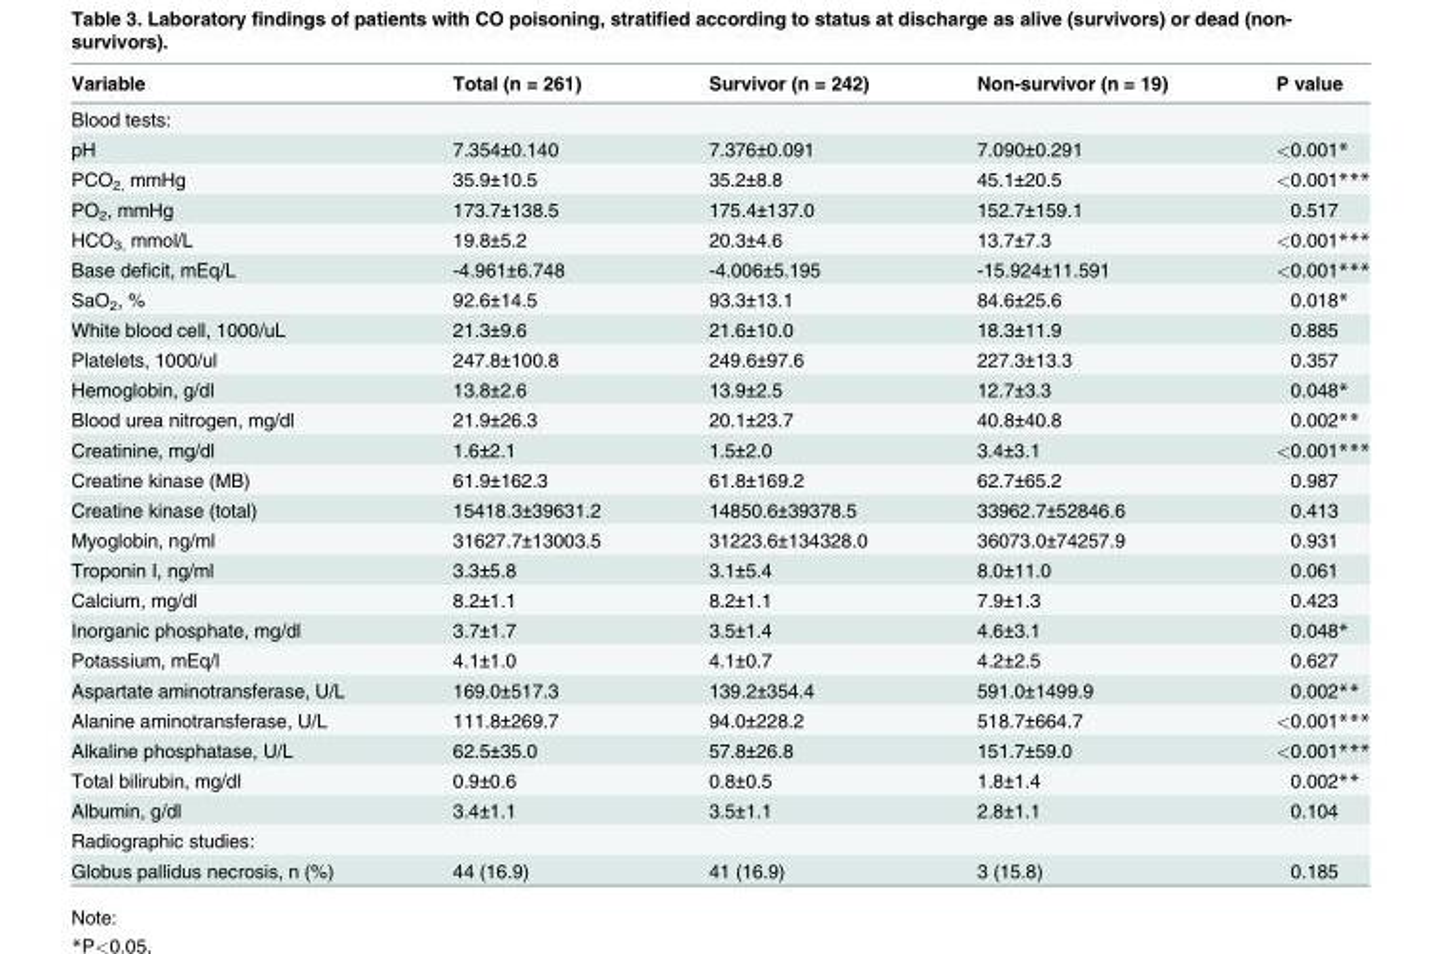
<table><thead><tr><td>Variable</td><td>Total (n = 261)</td><td>Survivor (n = 242)</td><td>Non-survivor (n = 19)</td><td>P value</td></tr></thead><tbody><tr><td colspan="5">Blood tests:</td></tr><tr><td>pH</td><td>7.354±0.140</td><td>7.376±0.091</td><td>7.090±0.291</td><td>&lt;0.001*</td></tr><tr><td>PCO<sub>2,</sub> mmHg</td><td>35.9±10.5</td><td>35.2±8.8</td><td>45.1±20.5</td><td>&lt;0.001***</td></tr><tr><td>PO<sub>2</sub>, mmHg</td><td>173.7±138.5</td><td>175.4±137.0</td><td>152.7±159.1</td><td>0.517</td></tr><tr><td>HCO<sub>3,</sub> mmol/L</td><td>19.8±5.2</td><td>20.3±4.6</td><td>13.7±7.3</td><td>&lt;0.001***</td></tr><tr><td>Base deficit, mEq/L</td><td>-4.961±6.748</td><td>-4.006±5.195</td><td>-15.924±11.591</td><td>&lt;0.001***</td></tr><tr><td>SaO<sub>2</sub>, %</td><td>92.6±14.5</td><td>93.3±13.1</td><td>84.6±25.6</td><td>0.018*</td></tr><tr><td>White blood cell, 1000/uL</td><td>21.3±9.6</td><td>21.6±10.0</td><td>18.3±11.9</td><td>0.885</td></tr><tr><td>Platelets, 1000/ul</td><td>247.8±100.8</td><td>249.6±97.6</td><td>227.3±13.3</td><td>0.357</td></tr><tr><td>Hemoglobin, g/dl</td><td>13.8±2.6</td><td>13.9±2.5</td><td>12.7±3.3</td><td>0.048*</td></tr><tr><td>Blood urea nitrogen, mg/dl</td><td>21.9±26.3</td><td>20.1±23.7</td><td>40.8±40.8</td><td>0.002**</td></tr><tr><td>Creatinine, mg/dl</td><td>1.6±2.1</td><td>1.5±2.0</td><td>3.4±3.1</td><td>&lt;0.001***</td></tr><tr><td>Creatine kinase (MB)</td><td>61.9±162.3</td><td>61.8±169.2</td><td>62.7±65.2</td><td>0.987</td></tr><tr><td>Creatine kinase (total)</td><td>15418.3±39631.2</td><td>14850.6±39378.5</td><td>33962.7±52846.6</td><td>0.413</td></tr><tr><td>Myoglobin, ng/ml</td><td>31627.7±13003.5</td><td>31223.6±134328.0</td><td>36073.0±74257.9</td><td>0.931</td></tr><tr><td>Troponin I, ng/ml</td><td>3.3±5.8</td><td>3.1±5.4</td><td>8.0±11.0</td><td>0.061</td></tr><tr><td>Calcium, mg/dl</td><td>8.2±1.1</td><td>8.2±1.1</td><td>7.9±1.3</td><td>0.423</td></tr><tr><td>Inorganic phosphate, mg/dl</td><td>3.7±1.7</td><td>3.5±1.4</td><td>4.6±3.1</td><td>0.048*</td></tr><tr><td>Potassium, mEq/l</td><td>4.1±1.0</td><td>4.1±0.7</td><td>4.2±2.5</td><td>0.627</td></tr><tr><td>Aspartate aminotransferase, U/L</td><td>169.0±517.3</td><td>139.2±354.4</td><td>591.0±1499.9</td><td>0.002**</td></tr><tr><td>Alanine aminotransferase, U/L</td><td>111.8±269.7</td><td>94.0±228.2</td><td>518.7±664.7</td><td>&lt;0.001***</td></tr><tr><td>Alkaline phosphatase, U/L</td><td>62.5±35.0</td><td>57.8±26.8</td><td>151.7±59.0</td><td>&lt;0.001***</td></tr><tr><td>Total bilirubin, mg/dl</td><td>0.9±0.6</td><td>0.8±0.5</td><td>1.8±1.4</td><td>0.002**</td></tr><tr><td>Albumin, g/dl</td><td>3.4±1.1</td><td>3.5±1.1</td><td>2.8±1.1</td><td>0.104</td></tr><tr><td colspan="5">Radiographic studies:</td></tr><tr><td>Globus pallidus necrosis, n (%)</td><td>44 (16.9)</td><td>41 (16.9)</td><td>3 (15.8)</td><td>0.185</td></tr></tbody></table>